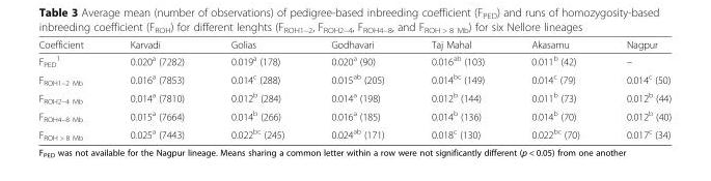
<table><thead><tr><td>Coefficient</td><td>Karvadi</td><td>Golias</td><td>Godhavari</td><td>Taj Mahal</td><td>Akasamu</td><td>Nagpur</td></tr></thead><tbody><tr><td>F<sub>PED</sub> <sup>1</sup></td><td>0.020<sup>a</sup> (7282)</td><td>0.019<sup>a</sup> (178)</td><td>0.020<sup>a</sup> (90)</td><td>0.016<sup>ab</sup> (103)</td><td>0.011<sup>b</sup> (42)</td><td>–</td></tr><tr><td>F<sub>ROH1–2 Mb</sub></td><td>0.016<sup>a</sup> (7853)</td><td>0.014<sup>c</sup> (288)</td><td>0.015<sup>ab</sup> (205)</td><td>0.014<sup>bc</sup> (149)</td><td>0.014<sup>c</sup> (79)</td><td>0.014<sup>c</sup> (50)</td></tr><tr><td>F<sub>ROH2–4 Mb</sub></td><td>0.014<sup>a</sup> (7810)</td><td>0.012<sup>b</sup> (284)</td><td>0.014<sup>a</sup> (198)</td><td>0.012<sup>b</sup> (144)</td><td>0.011<sup>b</sup> (73)</td><td>0.012<sup>b</sup> (44)</td></tr><tr><td>F<sub>ROH4–8 Mb</sub></td><td>0.015<sup>a</sup> (7664)</td><td>0.014<sup>b</sup> (266)</td><td>0.016<sup>a</sup> (185)</td><td>0.014<sup>b</sup> (136)</td><td>0.014<sup>b</sup> (70)</td><td>0.012<sup>b</sup> (40)</td></tr><tr><td>F<sub>ROH &gt; 8 Mb</sub></td><td>0.025<sup>a</sup> (7443)</td><td>0.022<sup>bc</sup> (245)</td><td>0.024<sup>ab</sup> (171)</td><td>0.018<sup>c</sup> (130)</td><td>0.022<sup>bc</sup> (70)</td><td>0.017<sup>c</sup> (34)</td></tr></tbody></table>